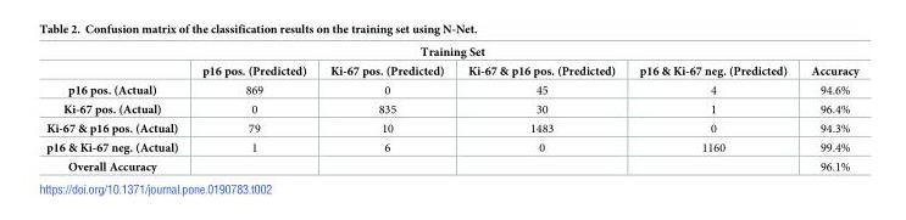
<table><thead><tr><td colspan="6">Training Set</td></tr><tr><td></td><td>p16 pos. (Predicted)</td><td>Ki-67 pos. (Predicted)</td><td>Ki-67 &amp; p16 pos. (Predicted)</td><td>p16 &amp; Ki-67 neg. (Predicted)</td><td>Accuracy</td></tr></thead><tbody><tr><td>p16 pos. (Actual)</td><td>869</td><td>0</td><td>45</td><td>4</td><td>94.6%</td></tr><tr><td>Ki-67 pos. (Actual)</td><td>0</td><td>835</td><td>30</td><td>1</td><td>96.4%</td></tr><tr><td>Ki-67 &amp; p16 pos. (Actual)</td><td>79</td><td>10</td><td>1483</td><td>0</td><td>94.3%</td></tr><tr><td>p16 &amp; Ki-67 neg. (Actual)</td><td>1</td><td>6</td><td>0</td><td>1160</td><td>99.4%</td></tr><tr><td>Overall Accuracy</td><td></td><td></td><td></td><td></td><td>96.1%</td></tr></tbody></table>